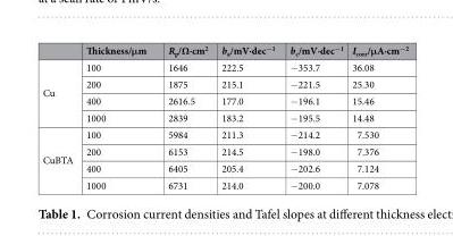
<table><thead><tr><td></td><td>Thickness/μm</td><td>R<sub>p</sub>/Ω·cm<sup>2</sup></td><td>b<sub>a</sub>/mV·dec<sup>−1</sup></td><td>b<sub>c</sub>/mV·dec<sup>−1</sup></td><td>I<sub>corr</sub>/μA·cm<sup>−2</sup></td></tr></thead><tbody><tr><td rowspan="4">Cu</td><td>100</td><td>1646</td><td>222.5</td><td>−353.7</td><td>36.08</td></tr><tr><td>200</td><td>1875</td><td>215.1</td><td>−221.5</td><td>25.30</td></tr><tr><td>400</td><td>2616.5</td><td>177.0</td><td>−196.1</td><td>15.46</td></tr><tr><td>1000</td><td>2839</td><td>183.2</td><td>−195.5</td><td>14.48</td></tr><tr><td rowspan="4">CuBTA</td><td>100</td><td>5984</td><td>211.3</td><td>−214.2</td><td>7.530</td></tr><tr><td>200</td><td>6153</td><td>214.5</td><td>−198.0</td><td>7.376</td></tr><tr><td>400</td><td>6405</td><td>205.4</td><td>−202.6</td><td>7.124</td></tr><tr><td>1000</td><td>6731</td><td>214.0</td><td>−200.0</td><td>7.078</td></tr></tbody></table>